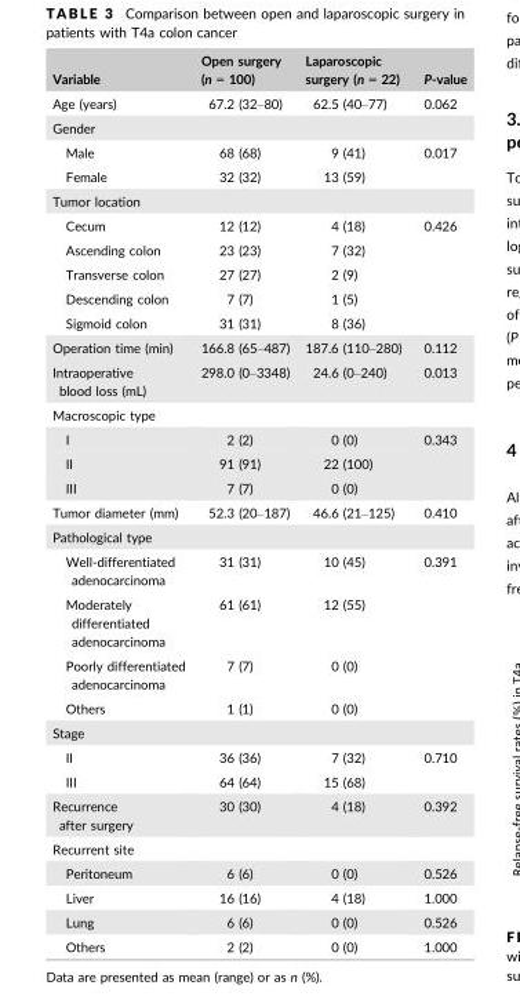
<table><thead><tr><td>Variable</td><td>Open surgery (n = 100)</td><td>Laparoscopic surgery (n = 22)</td><td>P-value</td></tr></thead><tbody><tr><td>Age (years)</td><td>67.2 (32–80)</td><td>62.5 (40–77)</td><td>0.062</td></tr><tr><td colspan="4">Gender</td></tr><tr><td>Male</td><td>68 (68)</td><td>9 (41)</td><td rowspan="2">0.017</td></tr><tr><td>Female</td><td>32 (32)</td><td>13 (59)</td></tr><tr><td colspan="4">Tumor location</td></tr><tr><td>Cecum</td><td>12 (12)</td><td>4 (18)</td><td rowspan="5">0.426</td></tr><tr><td>Ascending colon</td><td>23 (23)</td><td>7 (32)</td></tr><tr><td>Transverse colon</td><td>27 (27)</td><td>2 (9)</td></tr><tr><td>Descending colon</td><td>7 (7)</td><td>1 (5)</td></tr><tr><td>Sigmoid colon</td><td>31 (31)</td><td>8 (36)</td></tr><tr><td>Operation time (min)</td><td>166.8 (65–487)</td><td>187.6 (110–280)</td><td>0.112</td></tr><tr><td>Intraoperative blood loss (mL)</td><td>298.0 (0–3348)</td><td>24.6 (0–240)</td><td>0.013</td></tr><tr><td colspan="4">Macroscopic type</td></tr><tr><td>I</td><td>2 (2)</td><td>0 (0)</td><td rowspan="3">0.343</td></tr><tr><td>II</td><td>91 (91)</td><td>22 (100)</td></tr><tr><td>III</td><td>7 (7)</td><td>0 (0)</td></tr><tr><td>Tumor diameter (mm)</td><td>52.3 (20–187)</td><td>46.6 (21–125)</td><td>0.410</td></tr><tr><td colspan="4">Pathological type</td></tr><tr><td>Well-differentiated adenocarcinoma</td><td>31 (31)</td><td>10 (45)</td><td rowspan="4">0.391</td></tr><tr><td>Moderately differentiated adenocarcinoma</td><td>61 (61)</td><td>12 (55)</td></tr><tr><td>Poorly differentiated adenocarcinoma</td><td>7 (7)</td><td>0 (0)</td></tr><tr><td>Others</td><td>1 (1)</td><td>0 (0)</td></tr><tr><td colspan="4">Stage</td></tr><tr><td>II</td><td>36 (36)</td><td>7 (32)</td><td rowspan="2">0.710</td></tr><tr><td>III</td><td>64 (64)</td><td>15 (68)</td></tr><tr><td>Recurrence after surgery</td><td>30 (30)</td><td>4 (18)</td><td>0.392</td></tr><tr><td colspan="4">Recurrent site</td></tr><tr><td>Peritoneum</td><td>6 (6)</td><td>0 (0)</td><td>0.526</td></tr><tr><td>Liver</td><td>16 (16)</td><td>4 (18)</td><td>1.000</td></tr><tr><td>Lung</td><td>6 (6)</td><td>0 (0)</td><td>0.526</td></tr><tr><td>Others</td><td>2 (2)</td><td>0 (0)</td><td>1.000</td></tr></tbody></table>